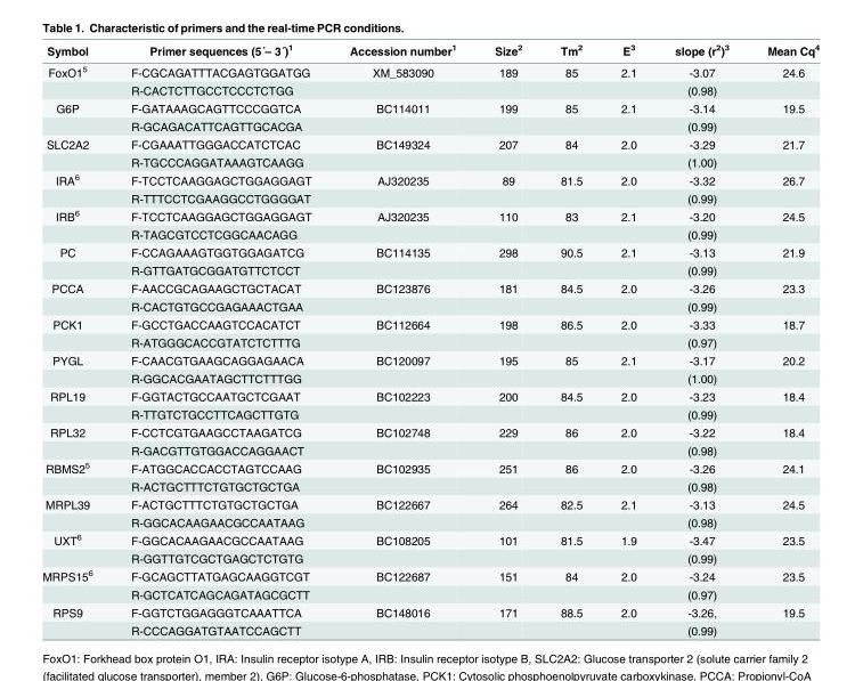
<table><thead><tr><td>Symbol</td><td>Primer sequences (5´– 3´)<sup>1</sup></td><td>Accession number<sup>1</sup></td><td>Size<sup>2</sup></td><td>Tm<sup>2</sup></td><td>E<sup>3</sup></td><td>slope (r<sup>2</sup>)<sup>3</sup></td><td>Mean Cq<sup>4</sup></td></tr></thead><tbody><tr><td rowspan="2">FoxO1<sup>5</sup></td><td>F-CGCAGATTTACGAGTGGATGG</td><td>XM_583090</td><td>189</td><td>85</td><td>2.1</td><td>-3.07</td><td>24.6</td></tr><tr><td>R-CACTCTTGCCTCCCTCTGG</td><td></td><td></td><td></td><td></td><td>(0.98)</td><td></td></tr><tr><td rowspan="2">G6P</td><td>F-GATAAAGCAGTTCCCGGTCA</td><td>BC114011</td><td>199</td><td>85</td><td>2.1</td><td>-3.14</td><td>19.5</td></tr><tr><td>R-GCAGACATTCAGTTGCACGA</td><td></td><td></td><td></td><td></td><td>(0.99)</td><td></td></tr><tr><td rowspan="2">SLC2A2</td><td>F-CGAAATTGGGACCATCTCAC</td><td>BC149324</td><td>207</td><td>84</td><td>2.0</td><td>-3.29</td><td>21.7</td></tr><tr><td>R-TGCCCAGGATAAAGTCAAGG</td><td></td><td></td><td></td><td></td><td>(1.00)</td><td></td></tr><tr><td rowspan="2">IRA<sup>6</sup></td><td>F-TCCTCAAGGAGCTGGAGGAGT</td><td>AJ320235</td><td>89</td><td>81.5</td><td>2.0</td><td>-3.32</td><td>26.7</td></tr><tr><td>R-TTTCCTCGAAGGCCTGGGGAT</td><td></td><td></td><td></td><td></td><td>(0.99)</td><td></td></tr><tr><td rowspan="2">IRB<sup>6</sup></td><td>F-TCCTCAAGGAGCTGGAGGAGT</td><td>AJ320235</td><td>110</td><td>83</td><td>2.1</td><td>-3.20</td><td>24.5</td></tr><tr><td>R-TAGCGTCCTCGGCAACAGG</td><td></td><td></td><td></td><td></td><td>(0.99)</td><td></td></tr><tr><td rowspan="2">PC</td><td>F-CCAGAAAGTGGTGGAGATCG</td><td>BC114135</td><td>298</td><td>90.5</td><td>2.1</td><td>-3.13</td><td>21.9</td></tr><tr><td>R-GTTGATGCGGATGTTCTCCT</td><td></td><td></td><td></td><td></td><td>(0.99)</td><td></td></tr><tr><td rowspan="2">PCCA</td><td>F-AACCGCAGAAGCTGCTACAT</td><td>BC123876</td><td>181</td><td>84.5</td><td>2.0</td><td>-3.26</td><td>23.3</td></tr><tr><td>R-CACTGTGCCGAGAAACTGAA</td><td></td><td></td><td></td><td></td><td>(0.99)</td><td></td></tr><tr><td rowspan="2">PCK1</td><td>F-GCCTGACCAAGTCCACATCT</td><td>BC112664</td><td>198</td><td>86.5</td><td>2.0</td><td>-3.33</td><td>18.7</td></tr><tr><td>R-ATGGGCACCGTATCTCTTTG</td><td></td><td></td><td></td><td></td><td>(0.97)</td><td></td></tr><tr><td rowspan="2">PYGL</td><td>F-CAACGTGAAGCAGGAGAACA</td><td>BC120097</td><td>195</td><td>85</td><td>2.1</td><td>-3.17</td><td>20.2</td></tr><tr><td>R-GGCACGAATAGCTTCTTTGG</td><td></td><td></td><td></td><td></td><td>(1.00)</td><td></td></tr><tr><td rowspan="2">RPL19</td><td>F-GGTACTGCCAATGCTCGAAT</td><td>BC102223</td><td>200</td><td>84.5</td><td>2.0</td><td>-3.23</td><td>18.4</td></tr><tr><td>R-TTGTCTGCCTTCAGCTTGTG</td><td></td><td></td><td></td><td></td><td>(0.99)</td><td></td></tr><tr><td rowspan="2">RPL32</td><td>F-CCTCGTGAAGCCTAAGATCG</td><td>BC102748</td><td>229</td><td>86</td><td>2.0</td><td>-3.22</td><td>18.4</td></tr><tr><td>R-GACGTTGTGGACCAGGAACT</td><td></td><td></td><td></td><td></td><td>(0.98)</td><td></td></tr><tr><td rowspan="2">RBMS2<sup>5</sup></td><td>F-ATGGCACCACCTAGTCCAAG</td><td>BC102935</td><td>251</td><td>86</td><td>2.0</td><td>-3.26</td><td>24.1</td></tr><tr><td>R-ACTGCTTTCTGTGCTGCTGA</td><td></td><td></td><td></td><td></td><td>(0.98)</td><td></td></tr><tr><td rowspan="2">MRPL39</td><td>F-ACTGCTTTCTGTGCTGCTGA</td><td>BC122667</td><td>264</td><td>82.5</td><td>2.1</td><td>-3.13</td><td>24.5</td></tr><tr><td>R-GGCACAAGAACGCCAATAAG</td><td></td><td></td><td></td><td></td><td>(0.98)</td><td></td></tr><tr><td rowspan="2">UXT<sup>6</sup></td><td>F-GGCACAAGAACGCCAATAAG</td><td>BC108205</td><td>101</td><td>81.5</td><td>1.9</td><td>-3.47</td><td>23.5</td></tr><tr><td>R-GGTTGTCGCTGAGCTCTGTG</td><td></td><td></td><td></td><td></td><td>(0.99)</td><td></td></tr><tr><td rowspan="2">MRPS15<sup>6</sup></td><td>F-GCAGCTTATGAGCAAGGTCGT</td><td>BC122687</td><td>151</td><td>84</td><td>2.0</td><td>-3.24</td><td>23.5</td></tr><tr><td>R-GCTCATCAGCAGATAGCGCTT</td><td></td><td></td><td></td><td></td><td>(0.97)</td><td></td></tr><tr><td rowspan="2">RPS9</td><td>F-GGTCTGGAGGGTCAAATTCA</td><td>BC148016</td><td>171</td><td>88.5</td><td>2.0</td><td>-3.26,</td><td>19.5</td></tr><tr><td>R-CCCAGGATGTAATCCAGCTT</td><td></td><td></td><td></td><td></td><td>(0.99)</td><td></td></tr></tbody></table>